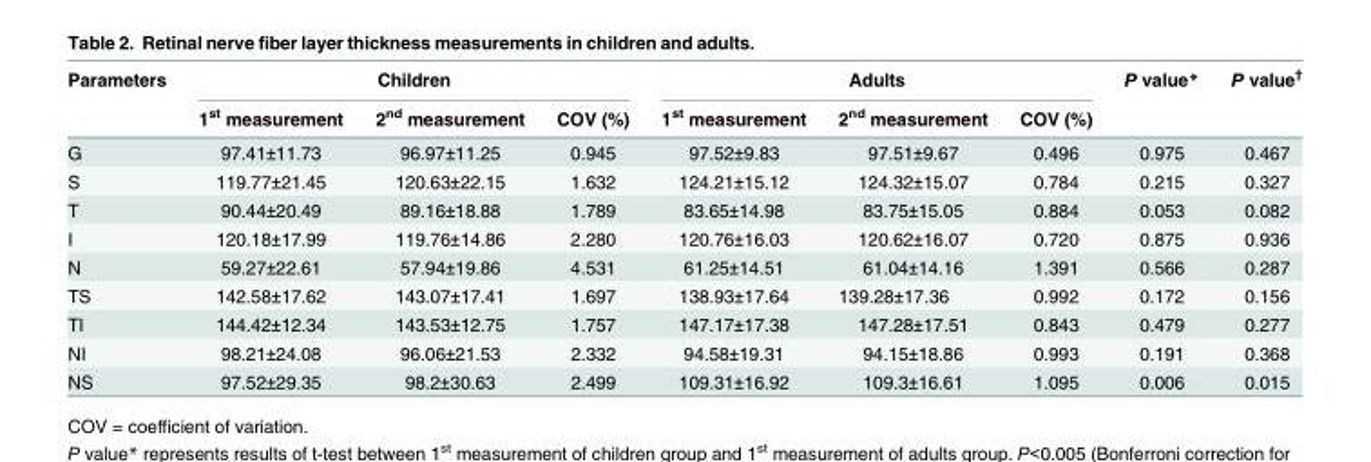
<table><thead><tr><td rowspan="2">Parameters</td><td colspan="3">Children</td><td colspan="3">Adults</td><td rowspan="2">P value*</td><td rowspan="2">P value<sup>†</sup></td></tr><tr><td>1<sup>st</sup> measurement</td><td>2<sup>nd</sup> measurement</td><td>COV (%)</td><td>1<sup>st</sup> measurement</td><td>2<sup>nd</sup> measurement</td><td>COV (%)</td></tr></thead><tbody><tr><td>G</td><td>97.41±11.73</td><td>96.97±11.25</td><td>0.945</td><td>97.52±9.83</td><td>97.51±9.67</td><td>0.496</td><td>0.975</td><td>0.467</td></tr><tr><td>S</td><td>119.77±21.45</td><td>120.63±22.15</td><td>1.632</td><td>124.21±15.12</td><td>124.32±15.07</td><td>0.784</td><td>0.215</td><td>0.327</td></tr><tr><td>T</td><td>90.44±20.49</td><td>89.16±18.88</td><td>1.789</td><td>83.65±14.98</td><td>83.75±15.05</td><td>0.884</td><td>0.053</td><td>0.082</td></tr><tr><td>I</td><td>120.18±17.99</td><td>119.76±14.86</td><td>2.280</td><td>120.76±16.03</td><td>120.62±16.07</td><td>0.720</td><td>0.875</td><td>0.936</td></tr><tr><td>N</td><td>59.27±22.61</td><td>57.94±19.86</td><td>4.531</td><td>61.25±14.51</td><td>61.04±14.16</td><td>1.391</td><td>0.566</td><td>0.287</td></tr><tr><td>TS</td><td>142.58±17.62</td><td>143.07±17.41</td><td>1.697</td><td>138.93±17.64</td><td>139.28±17.36</td><td>0.992</td><td>0.172</td><td>0.156</td></tr><tr><td>TI</td><td>144.42±12.34</td><td>143.53±12.75</td><td>1.757</td><td>147.17±17.38</td><td>147.28±17.51</td><td>0.843</td><td>0.479</td><td>0.277</td></tr><tr><td>NI</td><td>98.21±24.08</td><td>96.06±21.53</td><td>2.332</td><td>94.58±19.31</td><td>94.15±18.86</td><td>0.993</td><td>0.191</td><td>0.368</td></tr><tr><td>NS</td><td>97.52±29.35</td><td>98.2±30.63</td><td>2.499</td><td>109.31±16.92</td><td>109.3±16.61</td><td>1.095</td><td>0.006</td><td>0.015</td></tr></tbody></table>